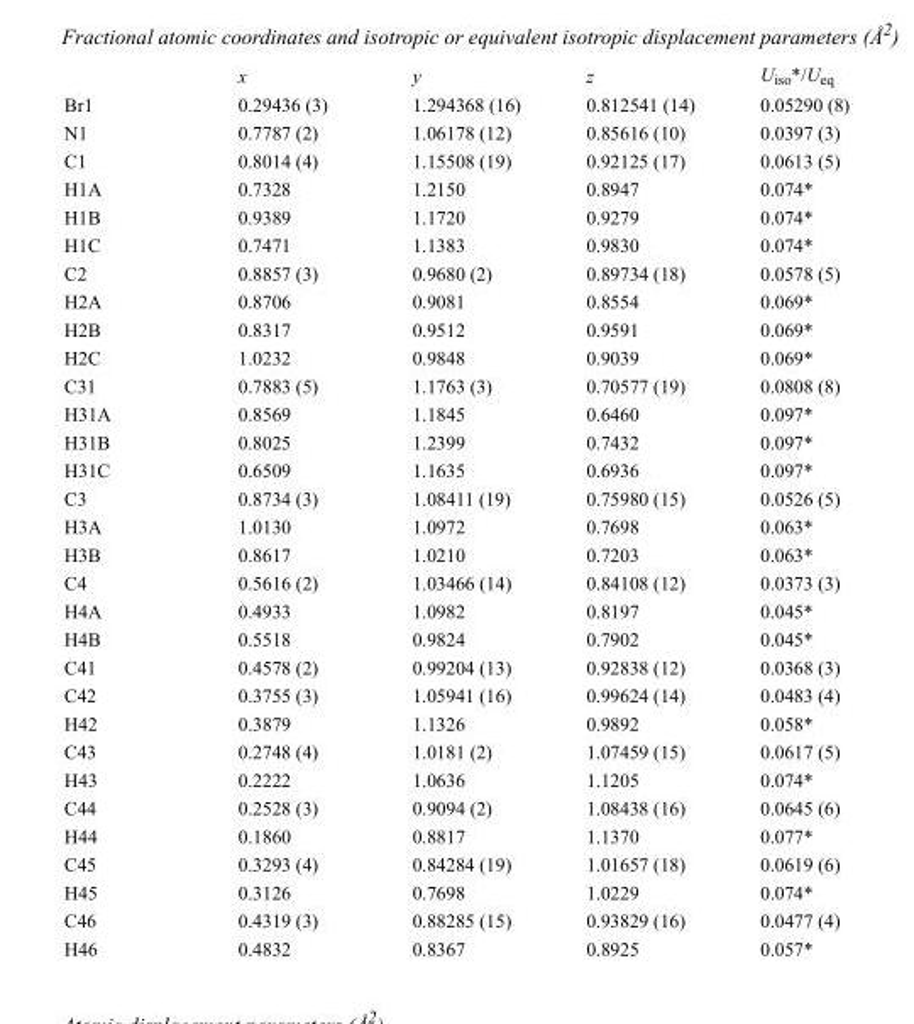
<table><thead><tr><td></td><td>x</td><td>y</td><td>z</td><td>U<sub>iso</sub>*/U<sub>eq</sub></td></tr></thead><tbody><tr><td>Br1</td><td>0.29436 (3)</td><td>1.294368 (16)</td><td>0.812541 (14)</td><td>0.05290 (8)</td></tr><tr><td>N1</td><td>0.7787 (2)</td><td>1.06178 (12)</td><td>0.85616 (10)</td><td>0.0397 (3)</td></tr><tr><td>C1</td><td>0.8014 (4)</td><td>1.15508 (19)</td><td>0.92125 (17)</td><td>0.0613 (5)</td></tr><tr><td>H1A</td><td>0.7328</td><td>1.2150</td><td>0.8947</td><td>0.074*</td></tr><tr><td>H1B</td><td>0.9389</td><td>1.1720</td><td>0.9279</td><td>0.074*</td></tr><tr><td>H1C</td><td>0.7471</td><td>1.1383</td><td>0.9830</td><td>0.074*</td></tr><tr><td>C2</td><td>0.8857 (3)</td><td>0.9680 (2)</td><td>0.89734 (18)</td><td>0.0578 (5)</td></tr><tr><td>H2A</td><td>0.8706</td><td>0.9081</td><td>0.8554</td><td>0.069*</td></tr><tr><td>H2B</td><td>0.8317</td><td>0.9512</td><td>0.9591</td><td>0.069*</td></tr><tr><td>H2C</td><td>1.0232</td><td>0.9848</td><td>0.9039</td><td>0.069*</td></tr><tr><td>C31</td><td>0.7883 (5)</td><td>1.1763 (3)</td><td>0.70577 (19)</td><td>0.0808 (8)</td></tr><tr><td>H31A</td><td>0.8569</td><td>1.1845</td><td>0.6460</td><td>0.097*</td></tr><tr><td>H31B</td><td>0.8025</td><td>1.2399</td><td>0.7432</td><td>0.097*</td></tr><tr><td>H31C</td><td>0.6509</td><td>1.1635</td><td>0.6936</td><td>0.097*</td></tr><tr><td>C3</td><td>0.8734 (3)</td><td>1.08411 (19)</td><td>0.75980 (15)</td><td>0.0526 (5)</td></tr><tr><td>H3A</td><td>1.0130</td><td>1.0972</td><td>0.7698</td><td>0.063*</td></tr><tr><td>H3B</td><td>0.8617</td><td>1.0210</td><td>0.7203</td><td>0.063*</td></tr><tr><td>C4</td><td>0.5616 (2)</td><td>1.03466 (14)</td><td>0.84108 (12)</td><td>0.0373 (3)</td></tr><tr><td>H4A</td><td>0.4933</td><td>1.0982</td><td>0.8197</td><td>0.045*</td></tr><tr><td>H4B</td><td>0.5518</td><td>0.9824</td><td>0.7902</td><td>0.045*</td></tr><tr><td>C41</td><td>0.4578 (2)</td><td>0.99204 (13)</td><td>0.92838 (12)</td><td>0.0368 (3)</td></tr><tr><td>C42</td><td>0.3755 (3)</td><td>1.05941 (16)</td><td>0.99624 (14)</td><td>0.0483 (4)</td></tr><tr><td>H42</td><td>0.3879</td><td>1.1326</td><td>0.9892</td><td>0.058*</td></tr><tr><td>C43</td><td>0.2748 (4)</td><td>1.0181 (2)</td><td>1.07459 (15)</td><td>0.0617 (5)</td></tr><tr><td>H43</td><td>0.2222</td><td>1.0636</td><td>1.1205</td><td>0.074*</td></tr><tr><td>C44</td><td>0.2528 (3)</td><td>0.9094 (2)</td><td>1.08438 (16)</td><td>0.0645 (6)</td></tr><tr><td>H44</td><td>0.1860</td><td>0.8817</td><td>1.1370</td><td>0.077*</td></tr><tr><td>C45</td><td>0.3293 (4)</td><td>0.84284 (19)</td><td>1.01657 (18)</td><td>0.0619 (6)</td></tr><tr><td>H45</td><td>0.3126</td><td>0.7698</td><td>1.0229</td><td>0.074*</td></tr><tr><td>C46</td><td>0.4319 (3)</td><td>0.88285 (15)</td><td>0.93829 (16)</td><td>0.0477 (4)</td></tr><tr><td>H46</td><td>0.4832</td><td>0.8367</td><td>0.8925</td><td>0.057*</td></tr></tbody></table>